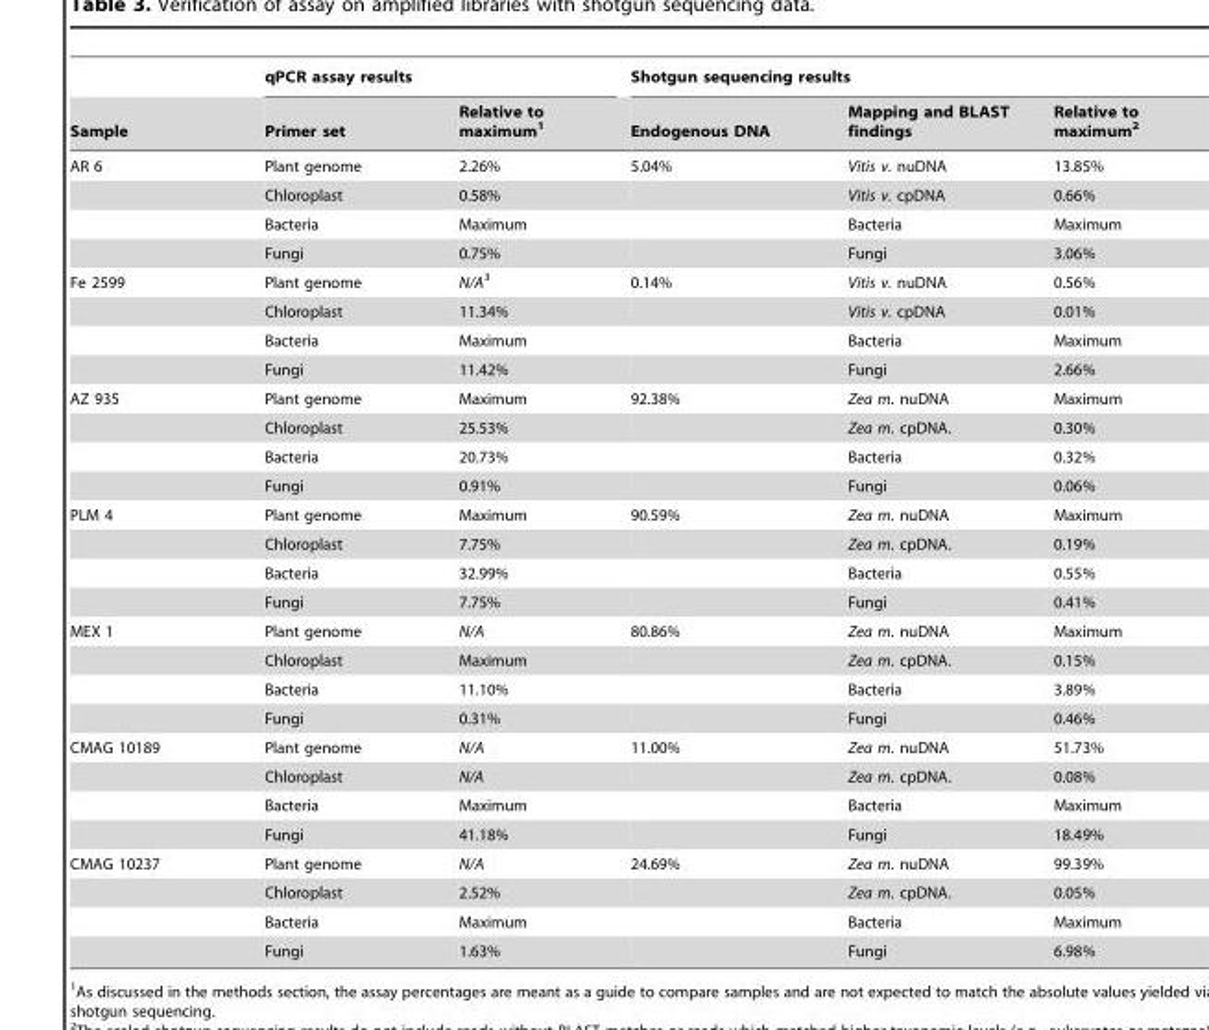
<table><thead><tr><td rowspan="2">Sample</td><td colspan="2">qPCR assay results</td><td colspan="3">Shotgun sequencing results</td></tr><tr><td>Primer set</td><td>Relative to maximum<sup>1</sup></td><td>Endogenous DNA</td><td>Mapping and BLAST findings</td><td>Relative to maximum<sup>2</sup></td></tr></thead><tbody><tr><td rowspan="4">AR 6</td><td>Plant genome</td><td>2.26%</td><td>5.04%</td><td>Vitis v. nuDNA</td><td>13.85%</td></tr><tr><td>Chloroplast</td><td>0.58%</td><td></td><td>Vitis v. cpDNA</td><td>0.66%</td></tr><tr><td>Bacteria</td><td>Maximum</td><td></td><td>Bacteria</td><td>Maximum</td></tr><tr><td>Fungi</td><td>0.75%</td><td></td><td>Fungi</td><td>3.06%</td></tr><tr><td rowspan="4">Fe 2599</td><td>Plant genome</td><td>N/A3</td><td>0.14%</td><td>Vitis v. nuDNA</td><td>0.56%</td></tr><tr><td>Chloroplast</td><td>11.34%</td><td></td><td>Vitis v. cpDNA</td><td>0.01%</td></tr><tr><td>Bacteria</td><td>Maximum</td><td></td><td>Bacteria</td><td>Maximum</td></tr><tr><td>Fungi</td><td>11.42%</td><td></td><td>Fungi</td><td>2.66%</td></tr><tr><td rowspan="4">AZ 935</td><td>Plant genome</td><td>Maximum</td><td>92.38%</td><td>Zea m. nuDNA</td><td>Maximum</td></tr><tr><td>Chloroplast</td><td>25.53%</td><td></td><td>Zea m. cpDNA.</td><td>0.30%</td></tr><tr><td>Bacteria</td><td>20.73%</td><td></td><td>Bacteria</td><td>0.32%</td></tr><tr><td>Fungi</td><td>0.91%</td><td></td><td>Fungi</td><td>0.06%</td></tr><tr><td rowspan="4">PLM 4</td><td>Plant genome</td><td>Maximum</td><td>90.59%</td><td>Zea m. nuDNA</td><td>Maximum</td></tr><tr><td>Chloroplast</td><td>7.75%</td><td></td><td>Zea m. cpDNA.</td><td>0.19%</td></tr><tr><td>Bacteria</td><td>32.99%</td><td></td><td>Bacteria</td><td>0.55%</td></tr><tr><td>Fungi</td><td>7.75%</td><td></td><td>Fungi</td><td>0.41%</td></tr><tr><td rowspan="4">MEX 1</td><td>Plant genome</td><td>N/A</td><td>80.86%</td><td>Zea m. nuDNA</td><td>Maximum</td></tr><tr><td>Chloroplast</td><td>Maximum</td><td></td><td>Zea m. cpDNA.</td><td>0.15%</td></tr><tr><td>Bacteria</td><td>11.10%</td><td></td><td>Bacteria</td><td>3.89%</td></tr><tr><td>Fungi</td><td>0.31%</td><td></td><td>Fungi</td><td>0.46%</td></tr><tr><td rowspan="4">CMAG 10189</td><td>Plant genome</td><td>N/A</td><td>11.00%</td><td>Zea m. nuDNA</td><td>51.73%</td></tr><tr><td>Chloroplast</td><td>N/A</td><td></td><td>Zea m. cpDNA.</td><td>0.08%</td></tr><tr><td>Bacteria</td><td>Maximum</td><td></td><td>Bacteria</td><td>Maximum</td></tr><tr><td>Fungi</td><td>41.18%</td><td></td><td>Fungi</td><td>18.49%</td></tr><tr><td rowspan="4">CMAG 10237</td><td>Plant genome</td><td>N/A</td><td>24.69%</td><td>Zea m. nuDNA</td><td>99.39%</td></tr><tr><td>Chloroplast</td><td>2.52%</td><td></td><td>Zea m. cpDNA.</td><td>0.05%</td></tr><tr><td>Bacteria</td><td>Maximum</td><td></td><td>Bacteria</td><td>Maximum</td></tr><tr><td>Fungi</td><td>1.63%</td><td></td><td>Fungi</td><td>6.98%</td></tr></tbody></table>